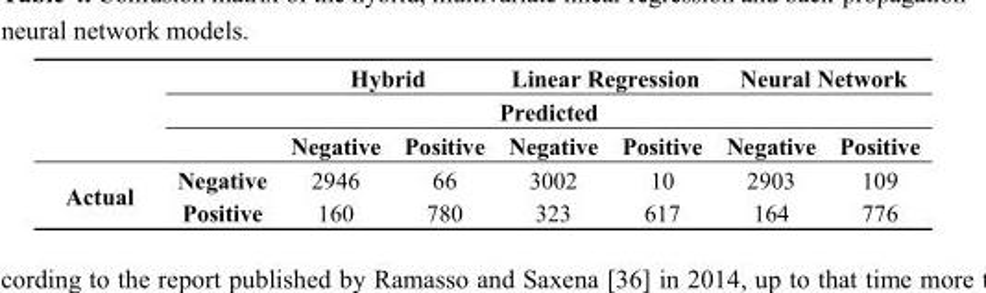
<table><thead><tr><td rowspan="3"></td><td></td><td colspan="2">Hybrid</td><td colspan="2">Linear Regression</td><td colspan="2">Neural Network</td></tr><tr><td colspan="7">Predicted</td></tr><tr><td></td><td>Negative</td><td>Positive</td><td>Negative</td><td>Positive</td><td>Negative</td><td>Positive</td></tr></thead><tbody><tr><td rowspan="2">Actual</td><td>Negative</td><td>2946</td><td>66</td><td>3002</td><td>10</td><td>2903</td><td>109</td></tr><tr><td>Positive</td><td>160</td><td>780</td><td>323</td><td>617</td><td>164</td><td>776</td></tr></tbody></table>